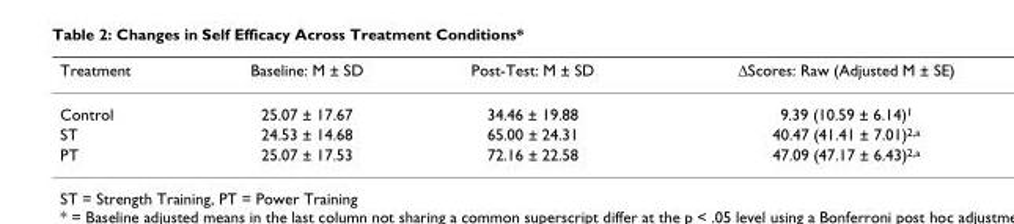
<table><thead><tr><td>Treatment</td><td>Baseline: M ± SD</td><td>Post-Test: M ± SD</td><td>ΔScores: Raw (Adjusted M ± SE)</td></tr></thead><tbody><tr><td>Control</td><td>25.07 ± 17.67</td><td>34.46 ± 19.88</td><td>9.39 (10.59 ± 6.14)<sup>1</sup></td></tr><tr><td>ST</td><td>24.53 ± 14.68</td><td>65.00 ± 24.31</td><td>40.47 (41.41 ± 7.01)<sup>2,a</sup></td></tr><tr><td>PT</td><td>25.07 ± 17.53</td><td>72.16 ± 22.58</td><td>47.09 (47.17 ± 6.43)<sup>2,a</sup></td></tr></tbody></table>